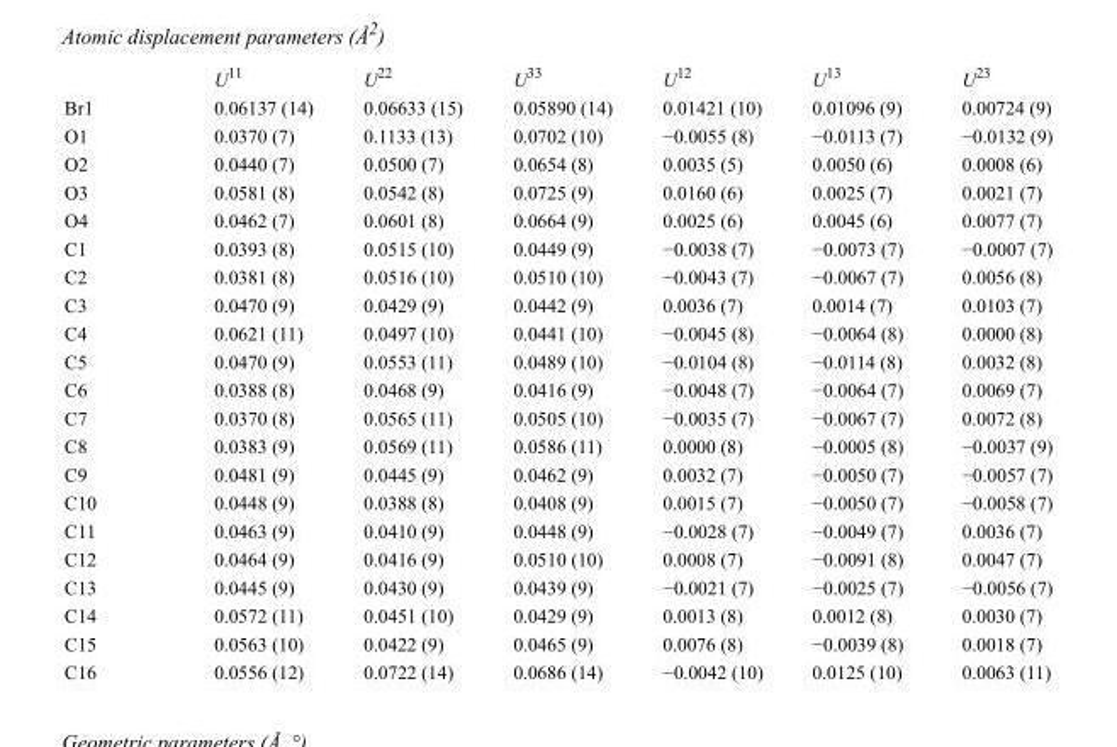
<table><thead><tr><td></td><td>U<sup>11</sup></td><td>U<sup>22</sup></td><td>U<sup>33</sup></td><td>U<sup>12</sup></td><td>U<sup>13</sup></td><td>U<sup>23</sup></td></tr></thead><tbody><tr><td>Br1</td><td>0.06137 (14)</td><td>0.06633 (15)</td><td>0.05890 (14)</td><td>0.01421 (10)</td><td>0.01096 (9)</td><td>0.00724 (9)</td></tr><tr><td>O1</td><td>0.0370 (7)</td><td>0.1133 (13)</td><td>0.0702 (10)</td><td>−0.0055 (8)</td><td>−0.0113 (7)</td><td>−0.0132 (9)</td></tr><tr><td>O2</td><td>0.0440 (7)</td><td>0.0500 (7)</td><td>0.0654 (8)</td><td>0.0035 (5)</td><td>0.0050 (6)</td><td>0.0008 (6)</td></tr><tr><td>O3</td><td>0.0581 (8)</td><td>0.0542 (8)</td><td>0.0725 (9)</td><td>0.0160 (6)</td><td>0.0025 (7)</td><td>0.0021 (7)</td></tr><tr><td>O4</td><td>0.0462 (7)</td><td>0.0601 (8)</td><td>0.0664 (9)</td><td>0.0025 (6)</td><td>0.0045 (6)</td><td>0.0077 (7)</td></tr><tr><td>C1</td><td>0.0393 (8)</td><td>0.0515 (10)</td><td>0.0449 (9)</td><td>−0.0038 (7)</td><td>−0.0073 (7)</td><td>−0.0007 (7)</td></tr><tr><td>C2</td><td>0.0381 (8)</td><td>0.0516 (10)</td><td>0.0510 (10)</td><td>−0.0043 (7)</td><td>−0.0067 (7)</td><td>0.0056 (8)</td></tr><tr><td>C3</td><td>0.0470 (9)</td><td>0.0429 (9)</td><td>0.0442 (9)</td><td>0.0036 (7)</td><td>0.0014 (7)</td><td>0.0103 (7)</td></tr><tr><td>C4</td><td>0.0621 (11)</td><td>0.0497 (10)</td><td>0.0441 (10)</td><td>−0.0045 (8)</td><td>−0.0064 (8)</td><td>0.0000 (8)</td></tr><tr><td>C5</td><td>0.0470 (9)</td><td>0.0553 (11)</td><td>0.0489 (10)</td><td>−0.0104 (8)</td><td>−0.0114 (8)</td><td>0.0032 (8)</td></tr><tr><td>C6</td><td>0.0388 (8)</td><td>0.0468 (9)</td><td>0.0416 (9)</td><td>−0.0048 (7)</td><td>−0.0064 (7)</td><td>0.0069 (7)</td></tr><tr><td>C7</td><td>0.0370 (8)</td><td>0.0565 (11)</td><td>0.0505 (10)</td><td>−0.0035 (7)</td><td>−0.0067 (7)</td><td>0.0072 (8)</td></tr><tr><td>C8</td><td>0.0383 (9)</td><td>0.0569 (11)</td><td>0.0586 (11)</td><td>0.0000 (8)</td><td>−0.0005 (8)</td><td>−0.0037 (9)</td></tr><tr><td>C9</td><td>0.0481 (9)</td><td>0.0445 (9)</td><td>0.0462 (9)</td><td>0.0032 (7)</td><td>−0.0050 (7)</td><td>−0.0057 (7)</td></tr><tr><td>C10</td><td>0.0448 (9)</td><td>0.0388 (8)</td><td>0.0408 (9)</td><td>0.0015 (7)</td><td>−0.0050 (7)</td><td>−0.0058 (7)</td></tr><tr><td>C11</td><td>0.0463 (9)</td><td>0.0410 (9)</td><td>0.0448 (9)</td><td>−0.0028 (7)</td><td>−0.0049 (7)</td><td>0.0036 (7)</td></tr><tr><td>C12</td><td>0.0464 (9)</td><td>0.0416 (9)</td><td>0.0510 (10)</td><td>0.0008 (7)</td><td>−0.0091 (8)</td><td>0.0047 (7)</td></tr><tr><td>C13</td><td>0.0445 (9)</td><td>0.0430 (9)</td><td>0.0439 (9)</td><td>−0.0021 (7)</td><td>−0.0025 (7)</td><td>−0.0056 (7)</td></tr><tr><td>C14</td><td>0.0572 (11)</td><td>0.0451 (10)</td><td>0.0429 (9)</td><td>0.0013 (8)</td><td>0.0012 (8)</td><td>0.0030 (7)</td></tr><tr><td>C15</td><td>0.0563 (10)</td><td>0.0422 (9)</td><td>0.0465 (9)</td><td>0.0076 (8)</td><td>−0.0039 (8)</td><td>0.0018 (7)</td></tr><tr><td>C16</td><td>0.0556 (12)</td><td>0.0722 (14)</td><td>0.0686 (14)</td><td>−0.0042 (10)</td><td>0.0125 (10)</td><td>0.0063 (11)</td></tr></tbody></table>